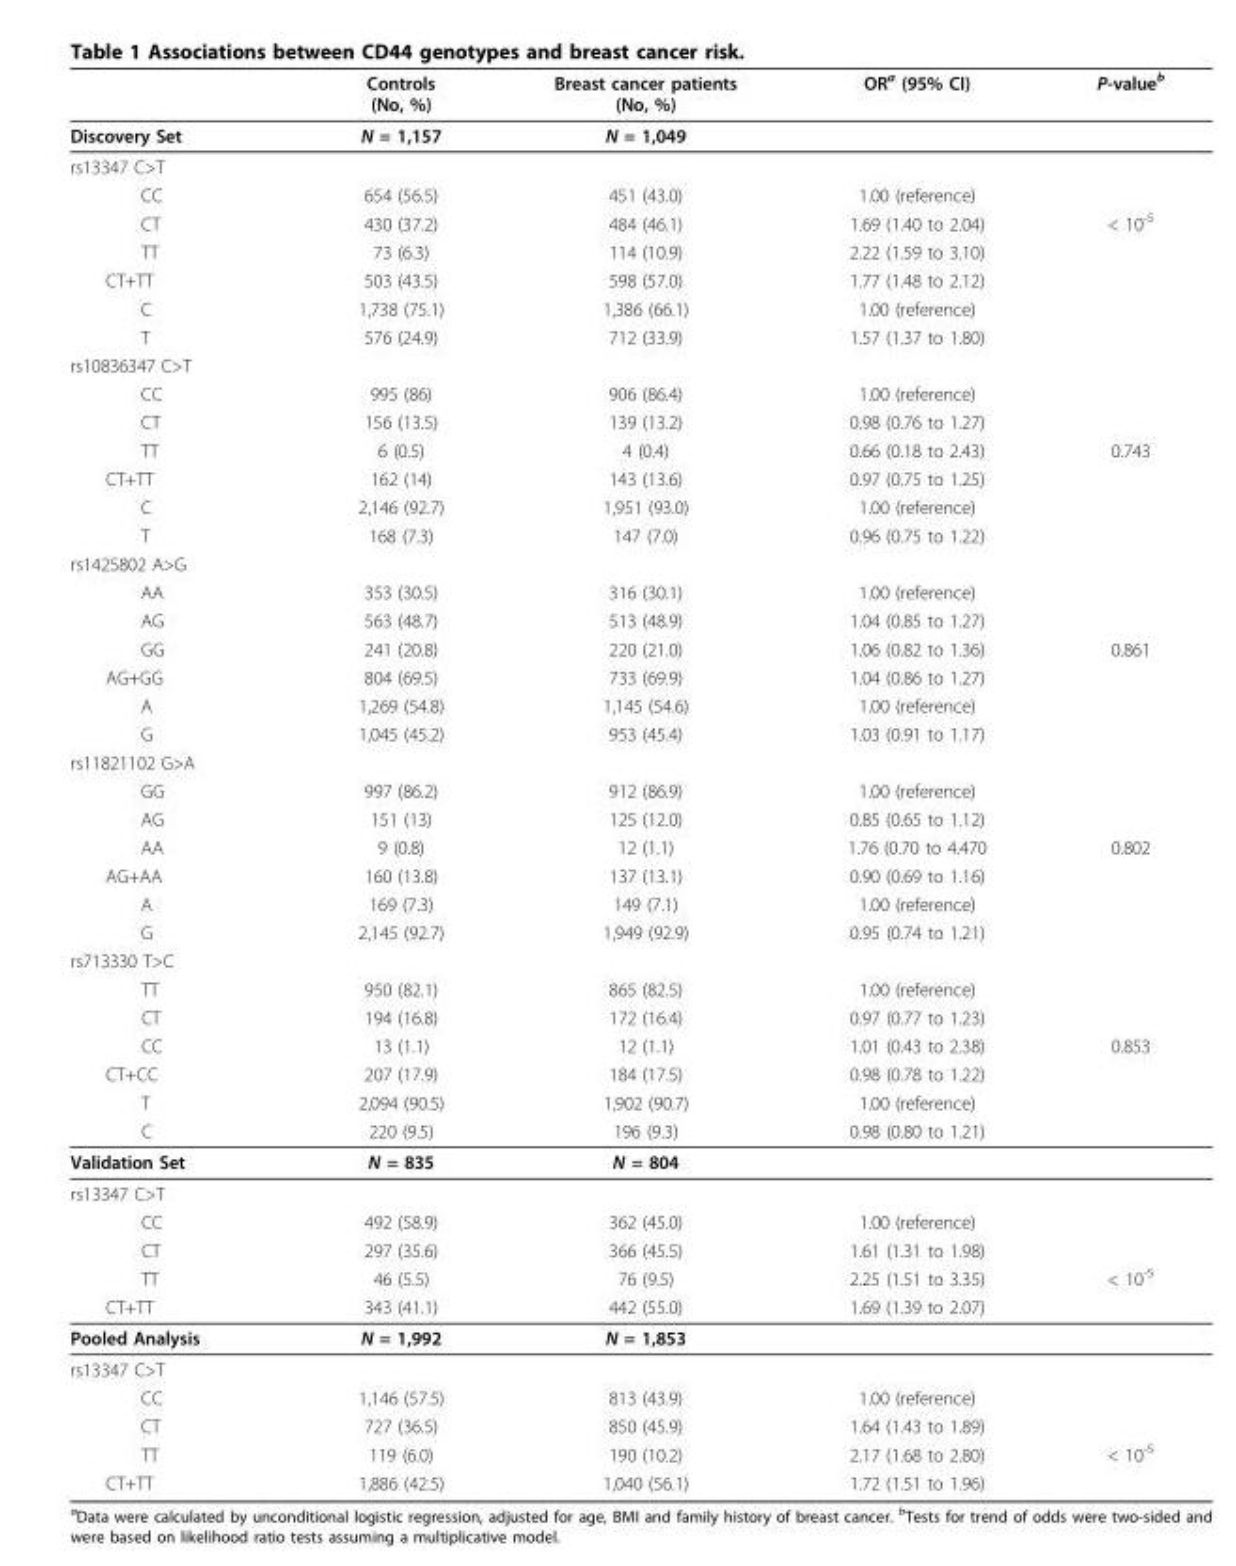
<table><thead><tr><td></td><td>Controls (No, %)</td><td>Breast cancer patients (No, %)</td><td>OR<sup>a</sup> (95% CI)</td><td>P-value<sup>b</sup></td></tr></thead><tbody><tr><td>Discovery Set</td><td>N = 1,157</td><td>N = 1,049</td><td></td><td></td></tr><tr><td colspan="5">rs13347 C&gt;T</td></tr><tr><td>CC</td><td>654 (56.5)</td><td>451 (43.0)</td><td>1.00 (reference)</td><td></td></tr><tr><td>CT</td><td>430 (37.2)</td><td>484 (46.1)</td><td>1.69 (1.40 to 2.04)</td><td>&lt; 10<sup>-5</sup></td></tr><tr><td>TT</td><td>73 (6.3)</td><td>114 (10.9)</td><td>2.22 (1.59 to 3.10)</td><td></td></tr><tr><td>CT+TT</td><td>503 (43.5)</td><td>598 (57.0)</td><td>1.77 (1.48 to 2.12)</td><td></td></tr><tr><td>C</td><td>1,738 (75.1)</td><td>1,386 (66.1)</td><td>1.00 (reference)</td><td></td></tr><tr><td>T</td><td>576 (24.9)</td><td>712 (33.9)</td><td>1.57 (1.37 to 1.80)</td><td></td></tr><tr><td colspan="5">rs10836347 C&gt;T</td></tr><tr><td>CC</td><td>995 (86)</td><td>906 (86.4)</td><td>1.00 (reference)</td><td></td></tr><tr><td>CT</td><td>156 (13.5)</td><td>139 (13.2)</td><td>0.98 (0.76 to 1.27)</td><td></td></tr><tr><td>TT</td><td>6 (0.5)</td><td>4 (0.4)</td><td>0.66 (0.18 to 2.43)</td><td>0.743</td></tr><tr><td>CT+TT</td><td>162 (14)</td><td>143 (13.6)</td><td>0.97 (0.75 to 1.25)</td><td></td></tr><tr><td>C</td><td>2,146 (92.7)</td><td>1,951 (93.0)</td><td>1.00 (reference)</td><td></td></tr><tr><td>T</td><td>168 (7.3)</td><td>147 (7.0)</td><td>0.96 (0.75 to 1.22)</td><td></td></tr><tr><td colspan="5">rs1425802 A&gt;G</td></tr><tr><td>AA</td><td>353 (30.5)</td><td>316 (30.1)</td><td>1.00 (reference)</td><td></td></tr><tr><td>AG</td><td>563 (48.7)</td><td>513 (48.9)</td><td>1.04 (0.85 to 1.27)</td><td></td></tr><tr><td>GG</td><td>241 (20.8)</td><td>220 (21.0)</td><td>1.06 (0.82 to 1.36)</td><td>0.861</td></tr><tr><td>AG+GG</td><td>804 (69.5)</td><td>733 (69.9)</td><td>1.04 (0.86 to 1.27)</td><td></td></tr><tr><td>A</td><td>1,269 (54.8)</td><td>1,145 (54.6)</td><td>1.00 (reference)</td><td></td></tr><tr><td>G</td><td>1,045 (45.2)</td><td>953 (45.4)</td><td>1.03 (0.91 to 1.17)</td><td></td></tr><tr><td colspan="5">rs11821102 G&gt;A</td></tr><tr><td>GG</td><td>997 (86.2)</td><td>912 (86.9)</td><td>1.00 (reference)</td><td></td></tr><tr><td>AG</td><td>151 (13)</td><td>125 (12.0)</td><td>0.85 (0.65 to 1.12)</td><td></td></tr><tr><td>AA</td><td>9 (0.8)</td><td>12 (1.1)</td><td>1.76 (0.70 to 4.470</td><td>0.802</td></tr><tr><td>AG+AA</td><td>160 (13.8)</td><td>137 (13.1)</td><td>0.90 (0.69 to 1.16)</td><td></td></tr><tr><td>A</td><td>169 (7.3)</td><td>149 (7.1)</td><td>1.00 (reference)</td><td></td></tr><tr><td>G</td><td>2,145 (92.7)</td><td>1,949 (92.9)</td><td>0.95 (0.74 to 1.21)</td><td></td></tr><tr><td colspan="5">rs713330 T&gt;C</td></tr><tr><td>TT</td><td>950 (82.1)</td><td>865 (82.5)</td><td>1.00 (reference)</td><td></td></tr><tr><td>CT</td><td>194 (16.8)</td><td>172 (16.4)</td><td>0.97 (0.77 to 1.23)</td><td></td></tr><tr><td>CC</td><td>13 (1.1)</td><td>12 (1.1)</td><td>1.01 (0.43 to 2.38)</td><td>0.853</td></tr><tr><td>CT+CC</td><td>207 (17.9)</td><td>184 (17.5)</td><td>0.98 (0.78 to 1.22)</td><td></td></tr><tr><td>T</td><td>2,094 (90.5)</td><td>1,902 (90.7)</td><td>1.00 (reference)</td><td></td></tr><tr><td>C</td><td>220 (9.5)</td><td>196 (9.3)</td><td>0.98 (0.80 to 1.21)</td><td></td></tr><tr><td>Validation Set</td><td>N = 835</td><td>N = 804</td><td></td><td></td></tr><tr><td colspan="5">rs13347 C&gt;T</td></tr><tr><td>CC</td><td>492 (58.9)</td><td>362 (45.0)</td><td>1.00 (reference)</td><td></td></tr><tr><td>CT</td><td>297 (35.6)</td><td>366 (45.5)</td><td>1.61 (1.31 to 1.98)</td><td></td></tr><tr><td>TT</td><td>46 (5.5)</td><td>76 (9.5)</td><td>2.25 (1.51 to 3.35)</td><td>&lt; 10<sup>-5</sup></td></tr><tr><td>CT+TT</td><td>343 (41.1)</td><td>442 (55.0)</td><td>1.69 (1.39 to 2.07)</td><td></td></tr><tr><td>Pooled Analysis</td><td>N = 1,992</td><td>N = 1,853</td><td></td><td></td></tr><tr><td colspan="5">rs13347 C&gt;T</td></tr><tr><td>CC</td><td>1,146 (57.5)</td><td>813 (43.9)</td><td>1.00 (reference)</td><td></td></tr><tr><td>CT</td><td>727 (36.5)</td><td>850 (45.9)</td><td>1.64 (1.43 to 1.89)</td><td></td></tr><tr><td>TT</td><td>119 (6.0)</td><td>190 (10.2)</td><td>2.17 (1.68 to 2.80)</td><td>&lt; 10<sup>-5</sup></td></tr><tr><td>CT+TT</td><td>1,886 (42.5)</td><td>1,040 (56.1)</td><td>1.72 (1.51 to 1.96)</td><td></td></tr></tbody></table>